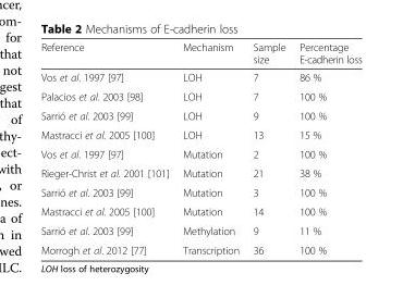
<table><thead><tr><td>Reference</td><td>Mechanism</td><td>Sample size</td><td>Percentage E-cadherin loss</td></tr></thead><tbody><tr><td>Vos et al. 1997 [97]</td><td>LOH</td><td>7</td><td>86 %</td></tr><tr><td>Palacios et al. 2003 [98]</td><td>LOH</td><td>7</td><td>100 %</td></tr><tr><td>Sarrió et al. 2003 [99]</td><td>LOH</td><td>9</td><td>100 %</td></tr><tr><td>Mastracci et al. 2005 [100]</td><td>LOH</td><td>13</td><td>15 %</td></tr><tr><td>Vos et al. 1997 [97]</td><td>Mutation</td><td>2</td><td>100 %</td></tr><tr><td>Rieger-Christ et al. 2001 [101]</td><td>Mutation</td><td>21</td><td>38 %</td></tr><tr><td>Sarrió et al. 2003 [99]</td><td>Mutation</td><td>3</td><td>100 %</td></tr><tr><td>Mastracci et al. 2005 [100]</td><td>Mutation</td><td>14</td><td>100 %</td></tr><tr><td>Sarrió et al. 2003 [99]</td><td>Methylation</td><td>9</td><td>11 %</td></tr><tr><td>Morrogh et al. 2012 [77]</td><td>Transcription</td><td>36</td><td>100 %</td></tr></tbody></table>